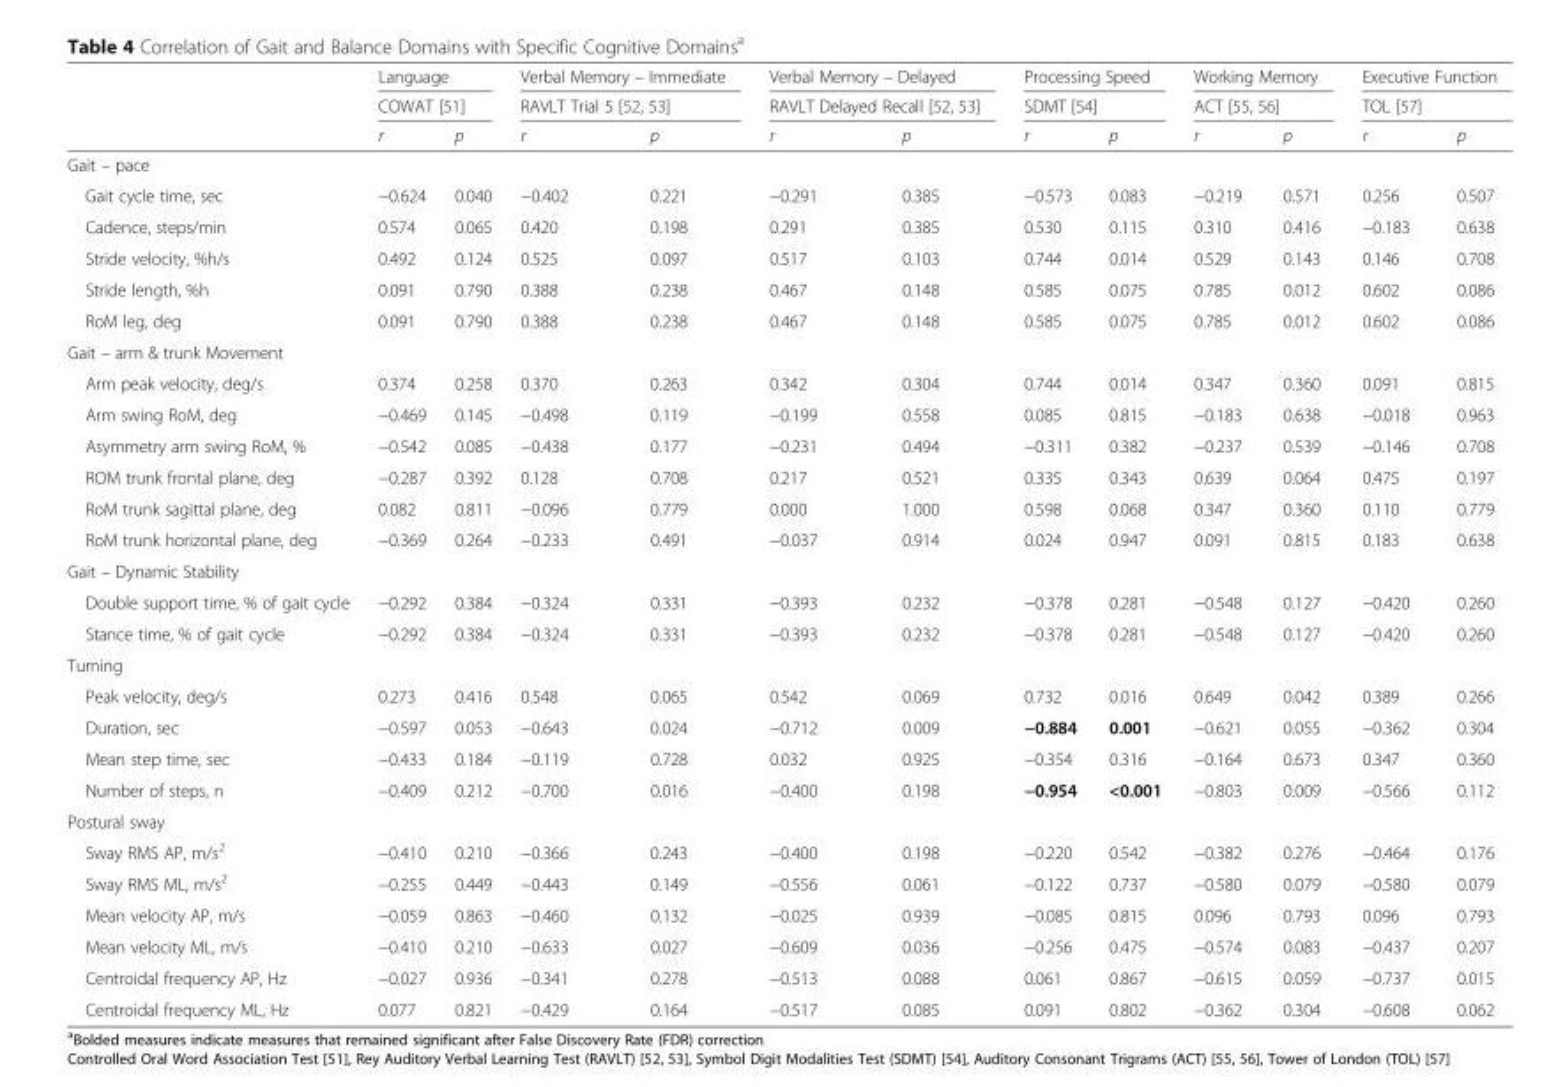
<table><thead><tr><td rowspan="3"></td><td rowspan="2" colspan="2">Language COWAT [51]</td><td rowspan="2" colspan="2">Verbal Memory – Immediate RAVLT Trial 5 [52, 53]</td><td rowspan="2" colspan="2">Verbal Memory – Delayed RAVLT Delayed Recall [52, 53]</td><td rowspan="2" colspan="2">Processing Speed SDMT [54]</td><td rowspan="2" colspan="2">Working Memory ACT [55, 56]</td><td rowspan="2" colspan="2">Executive Function TOL [57]</td></tr><tr></tr><tr><td>r</td><td>p</td><td>r</td><td>p</td><td>r</td><td>p</td><td>r</td><td>p</td><td>r</td><td>p</td><td>r</td><td>p</td></tr></thead><tbody><tr><td colspan="13">Gait – pace</td></tr><tr><td>Gait cycle time, sec</td><td>−0.624</td><td>0.040</td><td>−0.402</td><td>0.221</td><td>−0.291</td><td>0.385</td><td>−0.573</td><td>0.083</td><td>−0.219</td><td>0.571</td><td>0.256</td><td>0.507</td></tr><tr><td>Cadence, steps/min</td><td>0.574</td><td>0.065</td><td>0.420</td><td>0.198</td><td>0.291</td><td>0.385</td><td>0.530</td><td>0.115</td><td>0.310</td><td>0.416</td><td>−0.183</td><td>0.638</td></tr><tr><td>Stride velocity, %h/s</td><td>0.492</td><td>0.124</td><td>0.525</td><td>0.097</td><td>0.517</td><td>0.103</td><td>0.744</td><td>0.014</td><td>0.529</td><td>0.143</td><td>0.146</td><td>0.708</td></tr><tr><td>Stride length, %h</td><td>0.091</td><td>0.790</td><td>0.388</td><td>0.238</td><td>0.467</td><td>0.148</td><td>0.585</td><td>0.075</td><td>0.785</td><td>0.012</td><td>0.602</td><td>0.086</td></tr><tr><td>RoM leg, deg</td><td>0.091</td><td>0.790</td><td>0.388</td><td>0.238</td><td>0.467</td><td>0.148</td><td>0.585</td><td>0.075</td><td>0.785</td><td>0.012</td><td>0.602</td><td>0.086</td></tr><tr><td colspan="13">Gait – arm &amp; trunk Movement</td></tr><tr><td>Arm peak velocity, deg/s</td><td>0.374</td><td>0.258</td><td>0.370</td><td>0.263</td><td>0.342</td><td>0.304</td><td>0.744</td><td>0.014</td><td>0.347</td><td>0.360</td><td>0.091</td><td>0.815</td></tr><tr><td>Arm swing RoM, deg</td><td>−0.469</td><td>0.145</td><td>−0.498</td><td>0.119</td><td>−0.199</td><td>0.558</td><td>0.085</td><td>0.815</td><td>−0.183</td><td>0.638</td><td>−0.018</td><td>0.963</td></tr><tr><td>Asymmetry arm swing RoM, %</td><td>−0.542</td><td>0.085</td><td>−0.438</td><td>0.177</td><td>−0.231</td><td>0.494</td><td>−0.311</td><td>0.382</td><td>−0.237</td><td>0.539</td><td>−0.146</td><td>0.708</td></tr><tr><td>ROM trunk frontal plane, deg</td><td>−0.287</td><td>0.392</td><td>0.128</td><td>0.708</td><td>0.217</td><td>0.521</td><td>0.335</td><td>0.343</td><td>0.639</td><td>0.064</td><td>0.475</td><td>0.197</td></tr><tr><td>RoM trunk sagittal plane, deg</td><td>0.082</td><td>0.811</td><td>−0.096</td><td>0.779</td><td>0.000</td><td>1.000</td><td>0.598</td><td>0.068</td><td>0.347</td><td>0.360</td><td>0.110</td><td>0.779</td></tr><tr><td>RoM trunk horizontal plane, deg</td><td>−0.369</td><td>0.264</td><td>−0.233</td><td>0.491</td><td>−0.037</td><td>0.914</td><td>0.024</td><td>0.947</td><td>0.091</td><td>0.815</td><td>0.183</td><td>0.638</td></tr><tr><td colspan="13">Gait – Dynamic Stability</td></tr><tr><td>Double support time, % of gait cycle</td><td>−0.292</td><td>0.384</td><td>−0.324</td><td>0.331</td><td>−0.393</td><td>0.232</td><td>−0.378</td><td>0.281</td><td>−0.548</td><td>0.127</td><td>−0.420</td><td>0.260</td></tr><tr><td>Stance time, % of gait cycle</td><td>−0.292</td><td>0.384</td><td>−0.324</td><td>0.331</td><td>−0.393</td><td>0.232</td><td>−0.378</td><td>0.281</td><td>−0.548</td><td>0.127</td><td>−0.420</td><td>0.260</td></tr><tr><td colspan="13">Turning</td></tr><tr><td>Peak velocity, deg/s</td><td>0.273</td><td>0.416</td><td>0.548</td><td>0.065</td><td>0.542</td><td>0.069</td><td>0.732</td><td>0.016</td><td>0.649</td><td>0.042</td><td>0.389</td><td>0.266</td></tr><tr><td>Duration, sec</td><td>−0.597</td><td>0.053</td><td>−0.643</td><td>0.024</td><td>−0.712</td><td>0.009</td><td>−0.884</td><td>0.001</td><td>−0.621</td><td>0.055</td><td>−0.362</td><td>0.304</td></tr><tr><td>Mean step time, sec</td><td>−0.433</td><td>0.184</td><td>−0.119</td><td>0.728</td><td>0.032</td><td>0.925</td><td>−0.354</td><td>0.316</td><td>−0.164</td><td>0.673</td><td>0.347</td><td>0.360</td></tr><tr><td>Number of steps, n</td><td>−0.409</td><td>0.212</td><td>−0.700</td><td>0.016</td><td>−0.400</td><td>0.198</td><td>−0.954</td><td>&lt;0.001</td><td>−0.803</td><td>0.009</td><td>−0.566</td><td>0.112</td></tr><tr><td colspan="13">Postural sway</td></tr><tr><td>Sway RMS AP, m/s<sup>2</sup></td><td>−0.410</td><td>0.210</td><td>−0.366</td><td>0.243</td><td>−0.400</td><td>0.198</td><td>−0.220</td><td>0.542</td><td>−0.382</td><td>0.276</td><td>−0.464</td><td>0.176</td></tr><tr><td>Sway RMS ML, m/s<sup>2</sup></td><td>−0.255</td><td>0.449</td><td>−0.443</td><td>0.149</td><td>−0.556</td><td>0.061</td><td>−0.122</td><td>0.737</td><td>−0.580</td><td>0.079</td><td>−0.580</td><td>0.079</td></tr><tr><td>Mean velocity AP, m/s</td><td>−0.059</td><td>0.863</td><td>−0.460</td><td>0.132</td><td>−0.025</td><td>0.939</td><td>−0.085</td><td>0.815</td><td>0.096</td><td>0.793</td><td>0.096</td><td>0.793</td></tr><tr><td>Mean velocity ML, m/s</td><td>−0.410</td><td>0.210</td><td>−0.633</td><td>0.027</td><td>−0.609</td><td>0.036</td><td>−0.256</td><td>0.475</td><td>−0.574</td><td>0.083</td><td>−0.437</td><td>0.207</td></tr><tr><td>Centroidal frequency AP, Hz</td><td>−0.027</td><td>0.936</td><td>−0.341</td><td>0.278</td><td>−0.513</td><td>0.088</td><td>0.061</td><td>0.867</td><td>−0.615</td><td>0.059</td><td>−0.737</td><td>0.015</td></tr><tr><td>Centroidal frequency ML, Hz</td><td>0.077</td><td>0.821</td><td>−0.429</td><td>0.164</td><td>−0.517</td><td>0.085</td><td>0.091</td><td>0.802</td><td>−0.362</td><td>0.304</td><td>−0.608</td><td>0.062</td></tr></tbody></table>